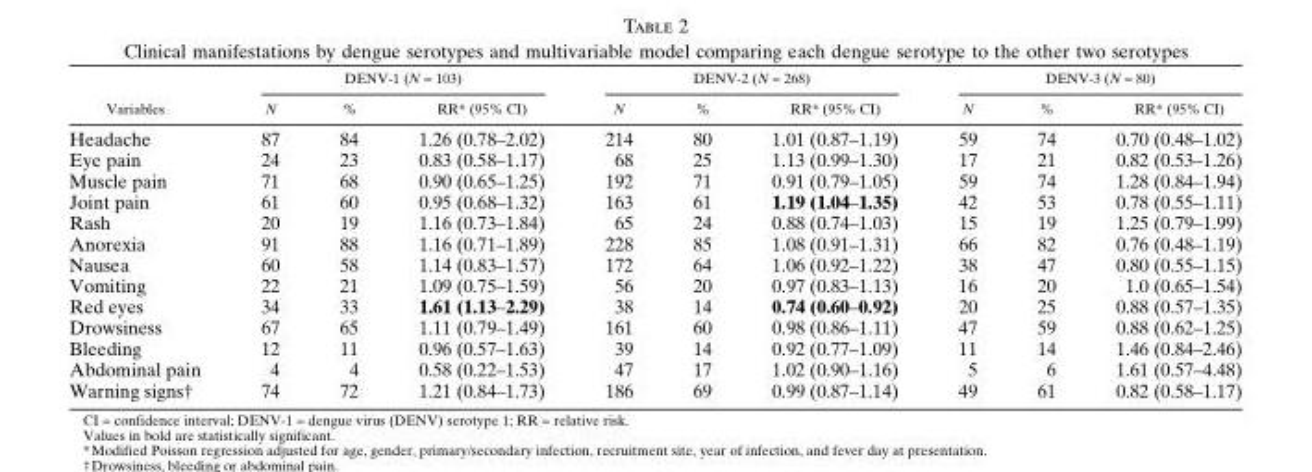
<table><thead><tr><td rowspan="2">Variables</td><td colspan="3">DENV-1 (N = 103)</td><td colspan="3">DENV-2 (N = 268)</td><td colspan="3">DENV-3 (N = 80)</td></tr><tr><td>N</td><td>%</td><td>RR* (95% CI)</td><td>N</td><td>%</td><td>RR* (95% CI)</td><td>N</td><td>%</td><td>RR* (95% CI)</td></tr></thead><tbody><tr><td>Headache</td><td>87</td><td>84</td><td>1.26 (0.78–2.02)</td><td>214</td><td>80</td><td>1.01 (0.87–1.19)</td><td>59</td><td>74</td><td>0.70 (0.48–1.02)</td></tr><tr><td>Eye pain</td><td>24</td><td>23</td><td>0.83 (0.58–1.17)</td><td>68</td><td>25</td><td>1.13 (0.99–1.30)</td><td>17</td><td>21</td><td>0.82 (0.53–1.26)</td></tr><tr><td>Muscle pain</td><td>71</td><td>68</td><td>0.90 (0.65–1.25)</td><td>192</td><td>71</td><td>0.91 (0.79–1.05)</td><td>59</td><td>74</td><td>1.28 (0.84–1.94)</td></tr><tr><td>Joint pain</td><td>61</td><td>60</td><td>0.95 (0.68–1.32)</td><td>163</td><td>61</td><td>1.19 (1.04–1.35)</td><td>42</td><td>53</td><td>0.78 (0.55–1.11)</td></tr><tr><td>Rash</td><td>20</td><td>19</td><td>1.16 (0.73–1.84)</td><td>65</td><td>24</td><td>0.88 (0.74–1.03)</td><td>15</td><td>19</td><td>1.25 (0.79–1.99)</td></tr><tr><td>Anorexia</td><td>91</td><td>88</td><td>1.16 (0.71–1.89)</td><td>228</td><td>85</td><td>1.08 (0.91–1.31)</td><td>66</td><td>82</td><td>0.76 (0.48–1.19)</td></tr><tr><td>Nausea</td><td>60</td><td>58</td><td>1.14 (0.83–1.57)</td><td>172</td><td>64</td><td>1.06 (0.92–1.22)</td><td>38</td><td>47</td><td>0.80 (0.55–1.15)</td></tr><tr><td>Vomiting</td><td>22</td><td>21</td><td>1.09 (0.75–1.59)</td><td>56</td><td>20</td><td>0.97 (0.83–1.13)</td><td>16</td><td>20</td><td>1.0 (0.65–1.54)</td></tr><tr><td>Red eyes</td><td>34</td><td>33</td><td>1.61 (1.13–2.29)</td><td>38</td><td>14</td><td>0.74 (0.60–0.92)</td><td>20</td><td>25</td><td>0.88 (0.57–1.35)</td></tr><tr><td>Drowsiness</td><td>67</td><td>65</td><td>1.11 (0.79–1.49)</td><td>161</td><td>60</td><td>0.98 (0.86–1.11)</td><td>47</td><td>59</td><td>0.88 (0.62–1.25)</td></tr><tr><td>Bleeding</td><td>12</td><td>11</td><td>0.96 (0.57–1.63)</td><td>39</td><td>14</td><td>0.92 (0.77–1.09)</td><td>11</td><td>14</td><td>1.46 (0.84–2.46)</td></tr><tr><td>Abdominal pain</td><td>4</td><td>4</td><td>0.58 (0.22–1.53)</td><td>47</td><td>17</td><td>1.02 (0.90–1.16)</td><td>5</td><td>6</td><td>1.61 (0.57–4.48)</td></tr><tr><td>Warning signs†</td><td>74</td><td>72</td><td>1.21 (0.84–1.73)</td><td>186</td><td>69</td><td>0.99 (0.87–1.14)</td><td>49</td><td>61</td><td>0.82 (0.58–1.17)</td></tr></tbody></table>